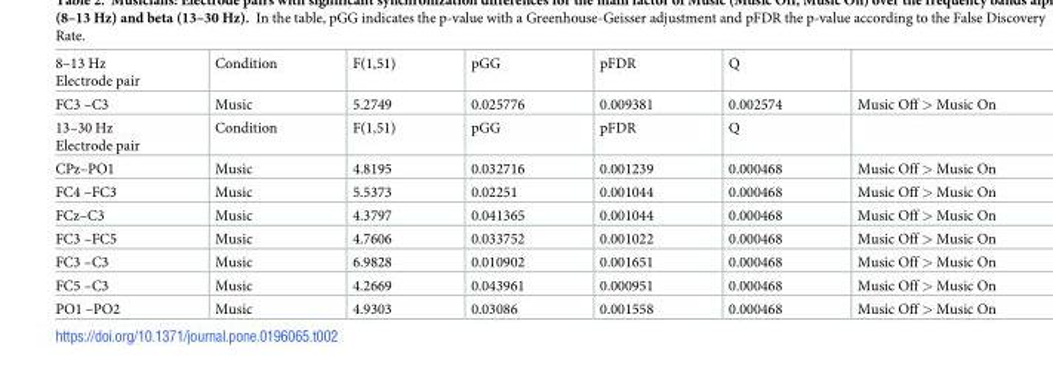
<table><tbody><tr><td>8–13 Hz Electrode pair</td><td>Condition</td><td>F(1,51)</td><td>pGG</td><td>pFDR</td><td>Q</td><td></td></tr><tr><td>FC3 –C3</td><td>Music</td><td>5.2749</td><td>0.025776</td><td>0.009381</td><td>0.002574</td><td>Music Off &gt; Music On</td></tr><tr><td>13–30 Hz Electrode pair</td><td>Condition</td><td>F(1,51)</td><td>pGG</td><td>pFDR</td><td>Q</td><td></td></tr><tr><td>CPz–PO1</td><td>Music</td><td>4.8195</td><td>0.032716</td><td>0.001239</td><td>0.000468</td><td>Music Off &gt; Music On</td></tr><tr><td>FC4 –FC3</td><td>Music</td><td>5.5373</td><td>0.02251</td><td>0.001044</td><td>0.000468</td><td>Music Off &gt; Music On</td></tr><tr><td>FCz–C3</td><td>Music</td><td>4.3797</td><td>0.041365</td><td>0.001044</td><td>0.000468</td><td>Music Off &gt; Music On</td></tr><tr><td>FC3 –FC5</td><td>Music</td><td>4.7606</td><td>0.033752</td><td>0.001022</td><td>0.000468</td><td>Music Off &gt; Music On</td></tr><tr><td>FC3 –C3</td><td>Music</td><td>6.9828</td><td>0.010902</td><td>0.001651</td><td>0.000468</td><td>Music Off &gt; Music On</td></tr><tr><td>FC5 –C3</td><td>Music</td><td>4.2669</td><td>0.043961</td><td>0.000951</td><td>0.000468</td><td>Music Off &gt; Music On</td></tr><tr><td>PO1 –PO2</td><td>Music</td><td>4.9303</td><td>0.03086</td><td>0.001558</td><td>0.000468</td><td>Music Off &gt; Music On</td></tr></tbody></table>